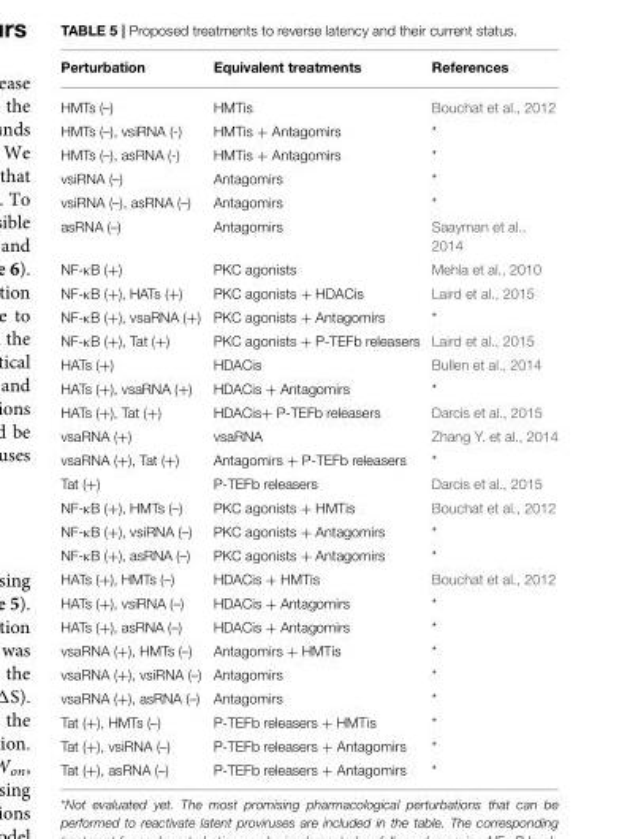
<table><thead><tr><td>Perturbation</td><td>Equivalent treatments</td><td>References</td></tr></thead><tbody><tr><td>HMTs (–)</td><td>HMTis</td><td>Bouchat et al., 2012</td></tr><tr><td>HMTs (–), vsiRNA (-)</td><td>HMTis + Antagomirs</td><td>*</td></tr><tr><td>HMTs (–), asRNA (-)</td><td>HMTis + Antagomirs</td><td>*</td></tr><tr><td>vsiRNA (–)</td><td>Antagomirs</td><td>*</td></tr><tr><td>vsiRNA (–), asRNA (–)</td><td>Antagomirs</td><td>*</td></tr><tr><td>asRNA (–)</td><td>Antagomirs</td><td>Saayman et al., 2014</td></tr><tr><td>NF-κB (+)</td><td>PKC agonists</td><td>Mehla et al., 2010</td></tr><tr><td>NF-κB (+), HATs (+)</td><td>PKC agonists + HDACis</td><td>Laird et al., 2015</td></tr><tr><td>NF-κB (+), vsaRNA (+)</td><td>PKC agonists + Antagomirs</td><td>*</td></tr><tr><td>NF-κB (+), Tat (+)</td><td>PKC agonists + P-TEFb releasers</td><td>Laird et al., 2015</td></tr><tr><td>HATs (+)</td><td>HDACis</td><td>Bullen et al., 2014</td></tr><tr><td>HATs (+), vsaRNA (+)</td><td>HDACis + Antagomirs</td><td>*</td></tr><tr><td>HATs (+), Tat (+)</td><td>HDACis+ P-TEFb releasers</td><td>Darcis et al., 2015</td></tr><tr><td>vsaRNA (+)</td><td>vsaRNA</td><td>Zhang Y. et al., 2014</td></tr><tr><td>vsaRNA (+), Tat (+)</td><td>Antagomirs + P-TEFb releasers</td><td>*</td></tr><tr><td>Tat (+)</td><td>P-TEFb releasers</td><td>Darcis et al., 2015</td></tr><tr><td>NF-κB (+), HMTs (–)</td><td>PKC agonists + HMTis</td><td>Bouchat et al., 2012</td></tr><tr><td>NF-κB (+), vsiRNA (–)</td><td>PKC agonists + Antagomirs</td><td>*</td></tr><tr><td>NF-κB (+), asRNA (–)</td><td>PKC agonists + Antagomirs</td><td>*</td></tr><tr><td>HATs (+), HMTs (–)</td><td>HDACis + HMTis</td><td>Bouchat et al., 2012</td></tr><tr><td>HATs (+), vsiRNA (–)</td><td>HDACis + Antagomirs</td><td>*</td></tr><tr><td>HATs (+), asRNA (–)</td><td>HDACis + Antagomirs</td><td>*</td></tr><tr><td>vsaRNA (+), HMTs (–)</td><td>Antagomirs + HMTis</td><td>*</td></tr><tr><td>vsaRNA (+), vsiRNA (–)</td><td>Antagomirs</td><td>*</td></tr><tr><td>vsaRNA (+), asRNA (–)</td><td>Antagomirs</td><td>*</td></tr><tr><td>Tat (+), HMTs (–)</td><td>P-TEFb releasers + HMTis</td><td>*</td></tr><tr><td>Tat (+), vsiRNA (–)</td><td>P-TEFb releasers + Antagomirs</td><td>*</td></tr><tr><td>Tat (+), asRNA (–)</td><td>P-TEFb releasers + Antagomirs</td><td>*</td></tr></tbody></table>